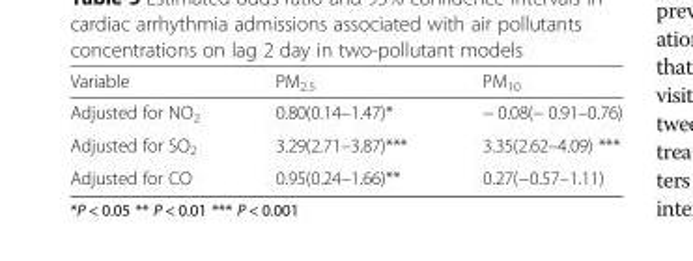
<table><thead><tr><td>Variable</td><td>PM<sub>2.5</sub></td><td>PM<sub>10</sub></td></tr></thead><tbody><tr><td>Adjusted for NO<sub>2</sub></td><td>0.80(0.14–1.47)*</td><td>− 0.08(− 0.91–0.76)</td></tr><tr><td>Adjusted for SO<sub>2</sub></td><td>3.29(2.71–3.87)***</td><td>3.35(2.62–4.09) ***</td></tr><tr><td>Adjusted for CO</td><td>0.95(0.24–1.66)**</td><td>0.27(−0.57–1.11)</td></tr></tbody></table>